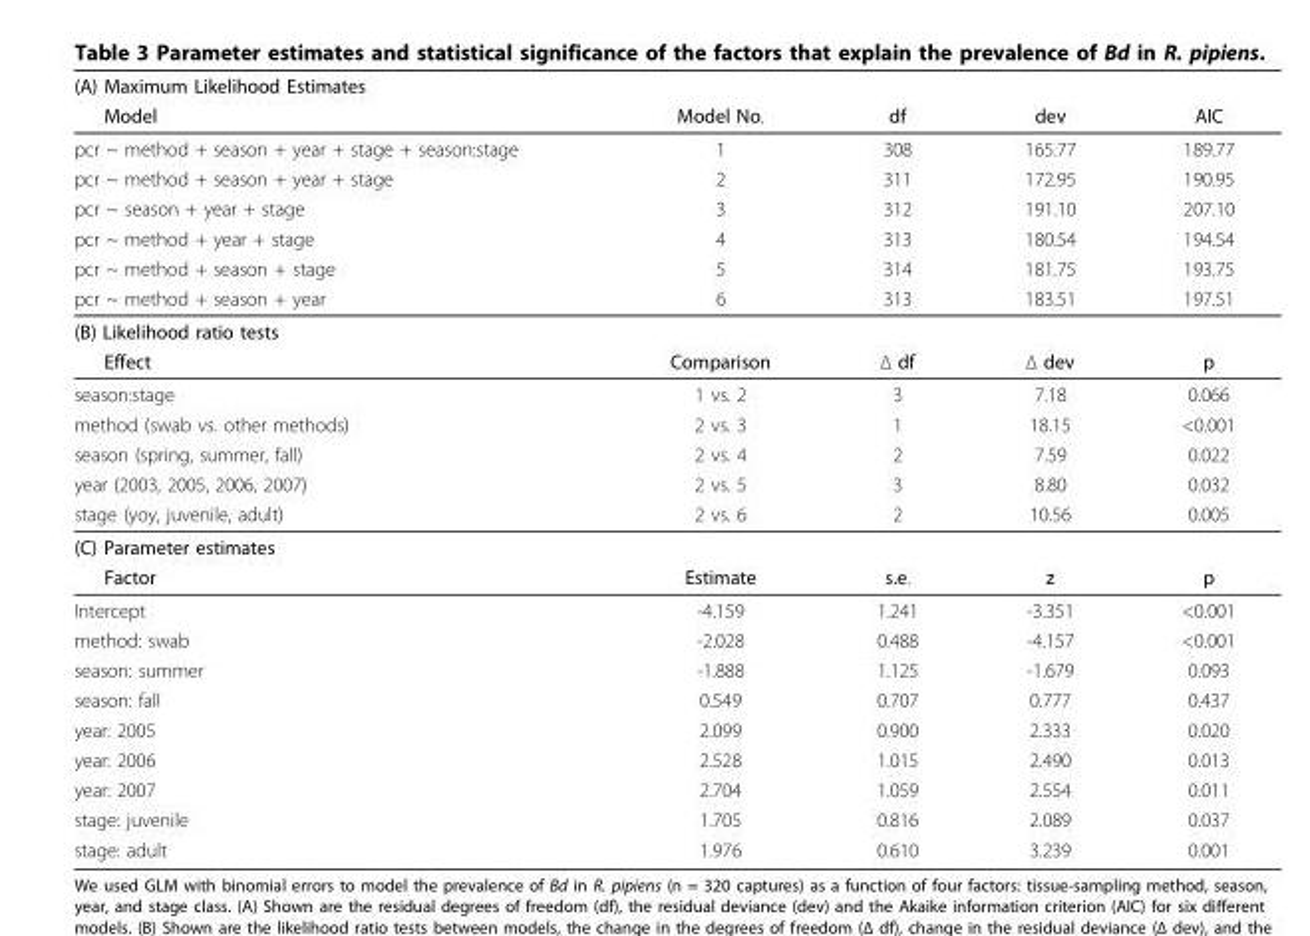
<table><thead><tr><td colspan="5">(A) Maximum Likelihood Estimates</td></tr><tr><td>Model</td><td>Model No.</td><td>df</td><td>dev</td><td>AIC</td></tr></thead><tbody><tr><td>pcr ~ method + season + year + stage + season:stage</td><td>1</td><td>308</td><td>165.77</td><td>189.77</td></tr><tr><td>pcr ~ method + season + year + stage</td><td>2</td><td>311</td><td>172.95</td><td>190.95</td></tr><tr><td>pcr ~ season + year + stage</td><td>3</td><td>312</td><td>191.10</td><td>207.10</td></tr><tr><td>pcr ~ method + year + stage</td><td>4</td><td>313</td><td>180.54</td><td>194.54</td></tr><tr><td>pcr ~ method + season + stage</td><td>5</td><td>314</td><td>181.75</td><td>193.75</td></tr><tr><td>pcr ~ method + season + year</td><td>6</td><td>313</td><td>183.51</td><td>197.51</td></tr><tr><td colspan="5">(B) Likelihood ratio tests</td></tr><tr><td>Effect</td><td>Comparison</td><td>Δ df</td><td>Δ dev</td><td>p</td></tr><tr><td>season:stage</td><td>1 vs. 2</td><td>3</td><td>7.18</td><td>0.066</td></tr><tr><td>method (swab vs. other methods)</td><td>2 vs. 3</td><td>1</td><td>18.15</td><td>&lt;0.001</td></tr><tr><td>season (spring, summer, fall)</td><td>2 vs. 4</td><td>2</td><td>7.59</td><td>0.022</td></tr><tr><td>year (2003, 2005, 2006, 2007)</td><td>2 vs. 5</td><td>3</td><td>8.80</td><td>0.032</td></tr><tr><td>stage (yoy, juvenile, adult)</td><td>2 vs. 6</td><td>2</td><td>10.56</td><td>0.005</td></tr><tr><td colspan="5">(C) Parameter estimates</td></tr><tr><td>Factor</td><td>Estimate</td><td>s.e.</td><td>z</td><td>p</td></tr><tr><td>Intercept</td><td>-4.159</td><td>1.241</td><td>-3.351</td><td>&lt;0.001</td></tr><tr><td>method: swab</td><td>-2.028</td><td>0.488</td><td>-4.157</td><td>&lt;0.001</td></tr><tr><td>season: summer</td><td>-1.888</td><td>1.125</td><td>-1.679</td><td>0.093</td></tr><tr><td>season: fall</td><td>0.549</td><td>0.707</td><td>0.777</td><td>0.437</td></tr><tr><td>year: 2005</td><td>2.099</td><td>0.900</td><td>2.333</td><td>0.020</td></tr><tr><td>year: 2006</td><td>2.528</td><td>1.015</td><td>2.490</td><td>0.013</td></tr><tr><td>year: 2007</td><td>2.704</td><td>1.059</td><td>2.554</td><td>0.011</td></tr><tr><td>stage: juvenile</td><td>1.705</td><td>0.816</td><td>2.089</td><td>0.037</td></tr><tr><td>stage: adult</td><td>1.976</td><td>0.610</td><td>3.239</td><td>0.001</td></tr></tbody></table>